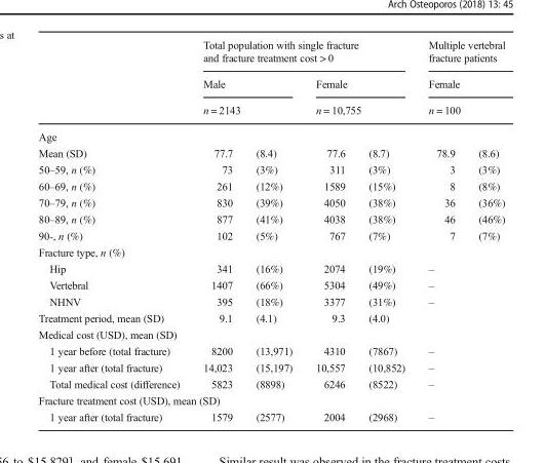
<table><thead><tr><td rowspan="3"></td><td colspan="4">Total population with single fracture and fracture treatment cost &gt; 0</td><td rowspan="3" colspan="2">Multiple vertebral fracture patients Female n = 100</td></tr><tr><td rowspan="2" colspan="2">Male n = 2143</td><td rowspan="2" colspan="2">Female n = 10,755</td></tr><tr></tr><tr><td colspan="7">Age</td></tr><tr><td>Mean (SD)</td><td>77.7</td><td>(8.4)</td><td>77.6</td><td>(8.7)</td><td>78.9</td><td>(8.6)</td></tr></thead><tbody><tr><td>50–59, n (%)</td><td>73</td><td>(3%)</td><td>311</td><td>(3%)</td><td>3</td><td>(3%)</td></tr><tr><td>60–69, n (%)</td><td>261</td><td>(12%)</td><td>1589</td><td>(15%)</td><td>8</td><td>(8%)</td></tr><tr><td>70–79, n (%)</td><td>830</td><td>(39%)</td><td>4050</td><td>(38%)</td><td>36</td><td>(36%)</td></tr><tr><td>80–89, n (%)</td><td>877</td><td>(41%)</td><td>4038</td><td>(38%)</td><td>46</td><td>(46%)</td></tr><tr><td>90-, n (%)</td><td>102</td><td>(5%)</td><td>767</td><td>(7%)</td><td>7</td><td>(7%)</td></tr><tr><td colspan="7">Fracture type, n (%)</td></tr><tr><td>Hip</td><td>341</td><td>(16%)</td><td>2074</td><td>(19%)</td><td colspan="2">–</td></tr><tr><td>Vertebral</td><td>1407</td><td>(66%)</td><td>5304</td><td>(49%)</td><td colspan="2">–</td></tr><tr><td>NHNV</td><td>395</td><td>(18%)</td><td>3377</td><td>(31%)</td><td colspan="2">–</td></tr><tr><td>Treatment period, mean (SD)</td><td>9.1</td><td>(4.1)</td><td>9.3</td><td>(4.0)</td><td colspan="2"></td></tr><tr><td colspan="7">Medical cost (USD), mean (SD)</td></tr><tr><td>1 year before (total fracture)</td><td>8200</td><td>(13,971)</td><td>4310</td><td>(7867)</td><td colspan="2">–</td></tr><tr><td>1 year after (total fracture)</td><td>14,023</td><td>(15,197)</td><td>10,557</td><td>(10,852)</td><td colspan="2">–</td></tr><tr><td>Total medical cost (difference)</td><td>5823</td><td>(8898)</td><td>6246</td><td>(8522)</td><td colspan="2">–</td></tr><tr><td colspan="7">Fracture treatment cost (USD), mean (SD)</td></tr><tr><td>1 year after (total fracture)</td><td>1579</td><td>(2577)</td><td>2004</td><td>(2968)</td><td colspan="2">–</td></tr></tbody></table>